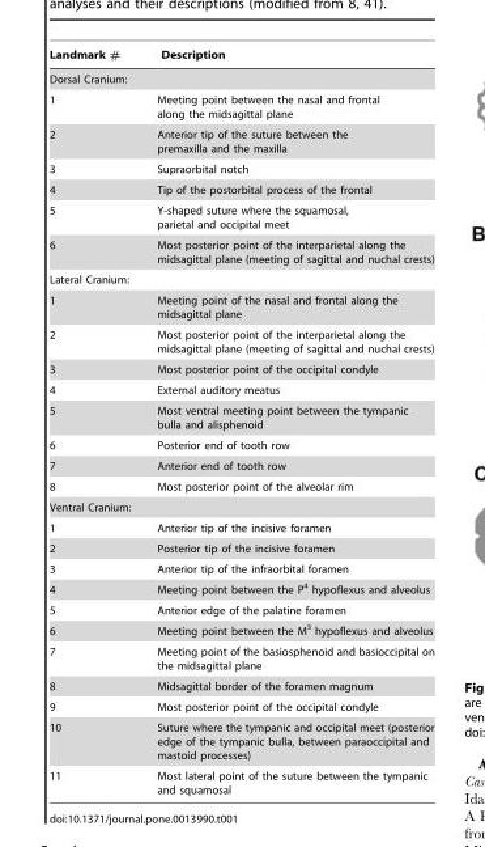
<table><thead><tr><td>Landmark #</td><td>Description</td></tr></thead><tbody><tr><td colspan="2">Dorsal Cranium:</td></tr><tr><td>1</td><td>Meeting point between the nasal and frontal along the midsagittal plane</td></tr><tr><td>2</td><td>Anterior tip of the suture between the premaxilla and the maxilla</td></tr><tr><td>3</td><td>Supraorbital notch</td></tr><tr><td>4</td><td>Tip of the postorbital process of the frontal</td></tr><tr><td>5</td><td>Y-shaped suture where the squamosal, parietal and occipital meet</td></tr><tr><td>6</td><td>Most posterior point of the interparietal along the midsagittal plane (meeting of sagittal and nuchal crests)</td></tr><tr><td colspan="2">Lateral Cranium:</td></tr><tr><td>1</td><td>Meeting point of the nasal and frontal along the midsagittal plane</td></tr><tr><td>2</td><td>Most posterior point of the interparietal along the midsagittal plane (meeting of sagittal and nuchal crests)</td></tr><tr><td>3</td><td>Most posterior point of the occipital condyle</td></tr><tr><td>4</td><td>External auditory meatus</td></tr><tr><td>5</td><td>Most ventral meeting point between the tympanic bulla and alisphenoid</td></tr><tr><td>6</td><td>Posterior end of tooth row</td></tr><tr><td>7</td><td>Anterior end of tooth row</td></tr><tr><td>8</td><td>Most posterior point of the alveolar rim</td></tr><tr><td colspan="2">Ventral Cranium:</td></tr><tr><td>1</td><td>Anterior tip of the incisive foramen</td></tr><tr><td>2</td><td>Posterior tip of the incisive foramen</td></tr><tr><td>3</td><td>Anterior tip of the infraorbital foramen</td></tr><tr><td>4</td><td>Meeting point between the P<sup>4</sup> hypoflexus and alveolus</td></tr><tr><td>5</td><td>Anterior edge of the palatine foramen</td></tr><tr><td>6</td><td>Meeting point between the M<sup>3</sup> hypoflexus and alveolus</td></tr><tr><td>7</td><td>Meeting point of the basiosphenoid and basioccipital on the midsagittal plane</td></tr><tr><td>8</td><td>Midsagittal border of the foramen magnum</td></tr><tr><td>9</td><td>Most posterior point of the occipital condyle</td></tr><tr><td>10</td><td>Suture where the tympanic and occipital meet (posterior edge of the tympanic bulla, between paraoccipital and mastoid processes)</td></tr><tr><td>11</td><td>Most lateral point of the suture between the tympanic and squamosal</td></tr></tbody></table>